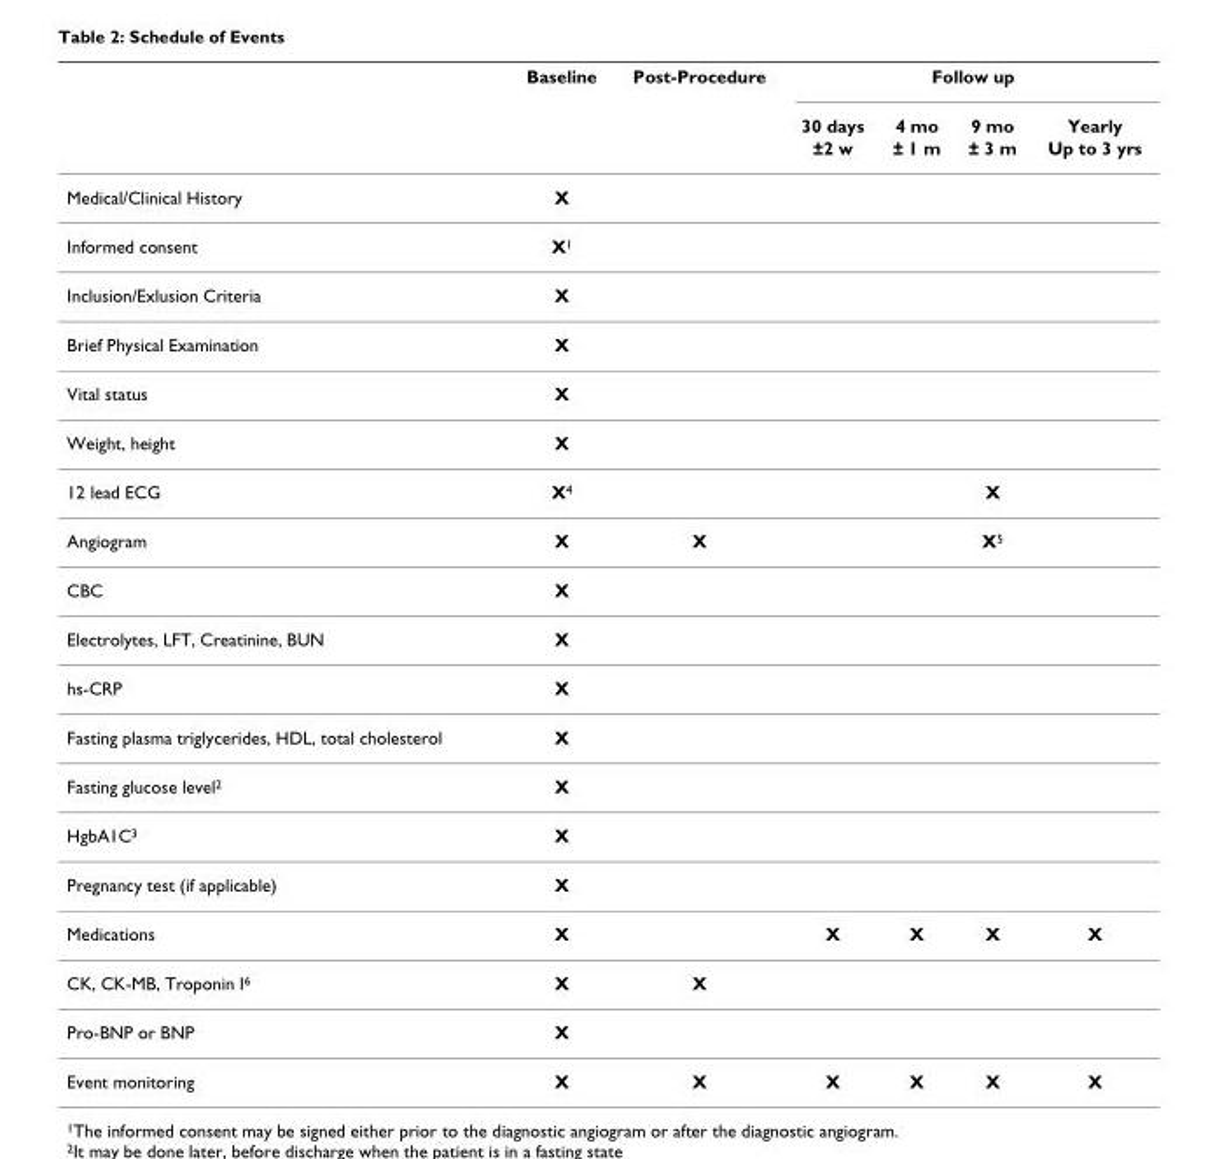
<table><thead><tr><td rowspan="3"></td><td rowspan="3">Baseline</td><td rowspan="3">Post-Procedure</td><td colspan="4">Follow up</td></tr><tr><td rowspan="2">30 days ±2 w</td><td rowspan="2">4 mo ± 1 m</td><td rowspan="2">9 mo ± 3 m</td><td rowspan="2">Yearly Up to 3 yrs</td></tr><tr></tr></thead><tbody><tr><td>Medical/Clinical History</td><td>X</td><td></td><td></td><td></td><td></td><td></td></tr><tr><td>Informed consent</td><td>X1</td><td></td><td></td><td></td><td></td><td></td></tr><tr><td>Inclusion/Exlusion Criteria</td><td>X</td><td></td><td></td><td></td><td></td><td></td></tr><tr><td>Brief Physical Examination</td><td>X</td><td></td><td></td><td></td><td></td><td></td></tr><tr><td>Vital status</td><td>X</td><td></td><td></td><td></td><td></td><td></td></tr><tr><td>Weight, height</td><td>X</td><td></td><td></td><td></td><td></td><td></td></tr><tr><td>12 lead ECG</td><td>X4</td><td></td><td></td><td></td><td>X</td><td></td></tr><tr><td>Angiogram</td><td>X</td><td>X</td><td></td><td></td><td>X5</td><td></td></tr><tr><td>CBC</td><td>X</td><td></td><td></td><td></td><td></td><td></td></tr><tr><td>Electrolytes, LFT, Creatinine, BUN</td><td>X</td><td></td><td></td><td></td><td></td><td></td></tr><tr><td>hs-CRP</td><td>X</td><td></td><td></td><td></td><td></td><td></td></tr><tr><td>Fasting plasma triglycerides, HDL, total cholesterol</td><td>X</td><td></td><td></td><td></td><td></td><td></td></tr><tr><td>Fasting glucose level2</td><td>X</td><td></td><td></td><td></td><td></td><td></td></tr><tr><td>HgbA1C3</td><td>X</td><td></td><td></td><td></td><td></td><td></td></tr><tr><td>Pregnancy test (if applicable)</td><td>X</td><td></td><td></td><td></td><td></td><td></td></tr><tr><td>Medications</td><td>X</td><td></td><td>X</td><td>X</td><td>X</td><td>X</td></tr><tr><td>CK, CK-MB, Troponin I6</td><td>X</td><td>X</td><td></td><td></td><td></td><td></td></tr><tr><td>Pro-BNP or BNP</td><td>X</td><td></td><td></td><td></td><td></td><td></td></tr><tr><td>Event monitoring</td><td>X</td><td>X</td><td>X</td><td>X</td><td>X</td><td>X</td></tr></tbody></table>